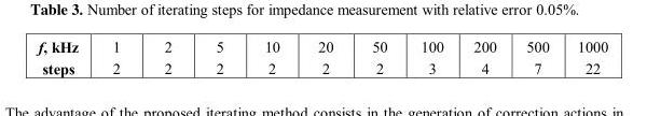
<table><tbody><tr><td>f, kHz</td><td>1</td><td>2</td><td>5</td><td>10</td><td>20</td><td>50</td><td>100</td><td>200</td><td>500</td><td>1000</td></tr><tr><td>steps</td><td>2</td><td>2</td><td>2</td><td>2</td><td>2</td><td>2</td><td>3</td><td>4</td><td>7</td><td>22</td></tr></tbody></table>